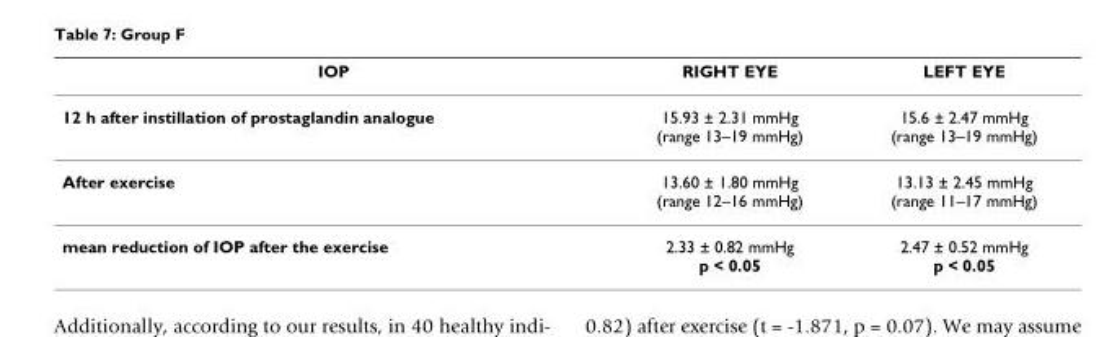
<table><thead><tr><td>IOP</td><td>RIGHT EYE</td><td>LEFT EYE</td></tr></thead><tbody><tr><td>12 h after instillation of prostaglandin analogue</td><td>15.93 ± 2.31 mmHg (range 13–19 mmHg)</td><td>15.6 ± 2.47 mmHg (range 13–19 mmHg)</td></tr><tr><td>After exercise</td><td>13.60 ± 1.80 mmHg (range 12–16 mmHg)</td><td>13.13 ± 2.45 mmHg (range 11–17 mmHg)</td></tr><tr><td>mean reduction of IOP after the exercise</td><td>2.33 ± 0.82 mmHg p &lt; 0.05</td><td>2.47 ± 0.52 mmHg p &lt; 0.05</td></tr></tbody></table>